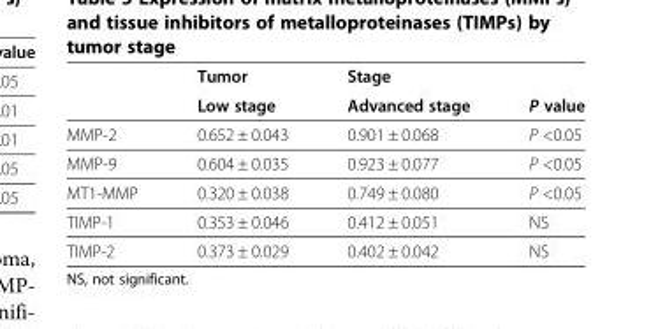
<table><thead><tr><td rowspan="2"></td><td rowspan="2">Tumor Low stage</td><td rowspan="2">Stage Advanced stage</td><td rowspan="2">P value</td></tr><tr></tr></thead><tbody><tr><td>MMP-2</td><td>0.652 ± 0.043</td><td>0.901 ± 0.068</td><td>P &lt;0.05</td></tr><tr><td>MMP-9</td><td>0.604 ± 0.035</td><td>0.923 ± 0.077</td><td>P &lt;0.05</td></tr><tr><td>MT1-MMP</td><td>0.320 ± 0.038</td><td>0.749 ± 0.080</td><td>P &lt;0.05</td></tr><tr><td>TIMP-1</td><td>0.353 ± 0.046</td><td>0.412 ± 0.051</td><td>NS</td></tr><tr><td>TIMP-2</td><td>0.373 ± 0.029</td><td>0.402 ± 0.042</td><td>NS</td></tr></tbody></table>